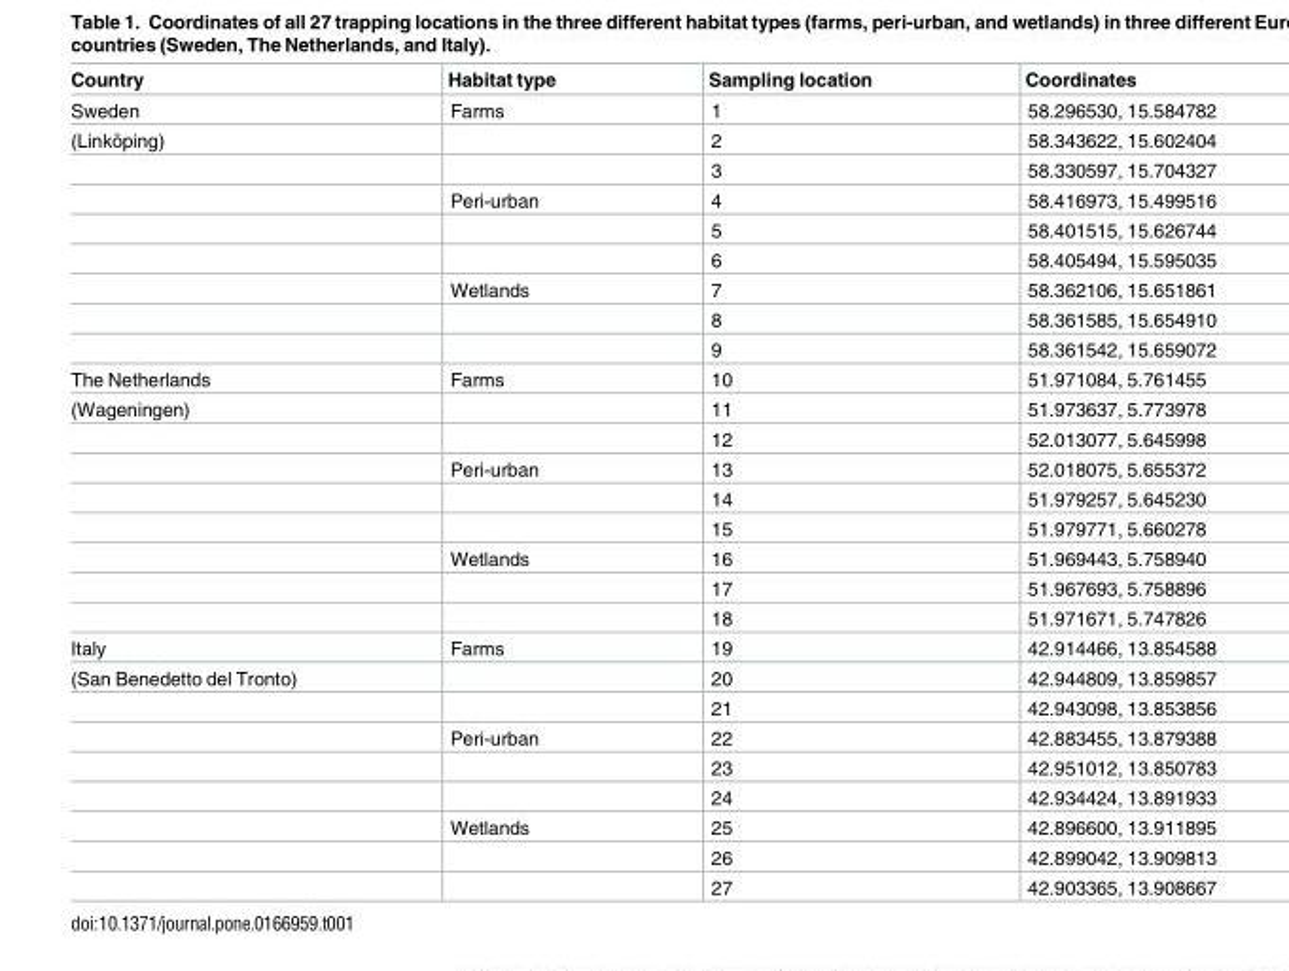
<table><thead><tr><td>Country</td><td>Habitat type</td><td>Sampling location</td><td>Coordinates</td></tr></thead><tbody><tr><td>Sweden</td><td>Farms</td><td>1</td><td>58.296530, 15.584782</td></tr><tr><td rowspan="8">(Linko¨ping)</td><td></td><td>2</td><td>58.343622, 15.602404</td></tr><tr><td></td><td>3</td><td>58.330597, 15.704327</td></tr><tr><td>Peri-urban</td><td>4</td><td>58.416973, 15.499516</td></tr><tr><td></td><td>5</td><td>58.401515, 15.626744</td></tr><tr><td></td><td>6</td><td>58.405494, 15.595035</td></tr><tr><td>Wetlands</td><td>7</td><td>58.362106, 15.651861</td></tr><tr><td></td><td>8</td><td>58.361585, 15.654910</td></tr><tr><td></td><td>9</td><td>58.361542, 15.659072</td></tr><tr><td>The Netherlands</td><td>Farms</td><td>10</td><td>51.971084, 5.761455</td></tr><tr><td rowspan="8">(Wageningen)</td><td></td><td>11</td><td>51.973637, 5.773978</td></tr><tr><td></td><td>12</td><td>52.013077, 5.645998</td></tr><tr><td>Peri-urban</td><td>13</td><td>52.018075, 5.655372</td></tr><tr><td></td><td>14</td><td>51.979257, 5.645230</td></tr><tr><td></td><td>15</td><td>51.979771, 5.660278</td></tr><tr><td>Wetlands</td><td>16</td><td>51.969443, 5.758940</td></tr><tr><td></td><td>17</td><td>51.967693, 5.758896</td></tr><tr><td></td><td>18</td><td>51.971671, 5.747826</td></tr><tr><td>Italy</td><td>Farms</td><td>19</td><td>42.914466, 13.854588</td></tr><tr><td rowspan="8">(San Benedetto del Tronto)</td><td></td><td>20</td><td>42.944809, 13.859857</td></tr><tr><td></td><td>21</td><td>42.943098, 13.853856</td></tr><tr><td>Peri-urban</td><td>22</td><td>42.883455, 13.879388</td></tr><tr><td></td><td>23</td><td>42.951012, 13.850783</td></tr><tr><td></td><td>24</td><td>42.934424, 13.891933</td></tr><tr><td>Wetlands</td><td>25</td><td>42.896600, 13.911895</td></tr><tr><td></td><td>26</td><td>42.899042, 13.909813</td></tr><tr><td></td><td>27</td><td>42.903365, 13.908667</td></tr></tbody></table>